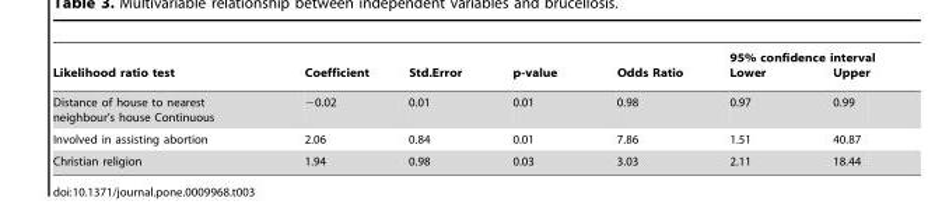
<table><thead><tr><td rowspan="2">Likelihood ratio test Distance of house to nearest neighbour’s house Continuous</td><td rowspan="2">Coefficient −0.02</td><td rowspan="2">Std.Error 0.01</td><td rowspan="2">p-value 0.01</td><td rowspan="2">Odds Ratio 0.98</td><td colspan="2">95% confidence interval Lower Upper</td></tr><tr><td>0.97</td><td>0.99</td></tr></thead><tbody><tr><td>Involved in assisting abortion</td><td>2.06</td><td>0.84</td><td>0.01</td><td>7.86</td><td>1.51</td><td>40.87</td></tr><tr><td>Christian religion</td><td>1.94</td><td>0.98</td><td>0.03</td><td>3.03</td><td>2.11</td><td>18.44</td></tr></tbody></table>